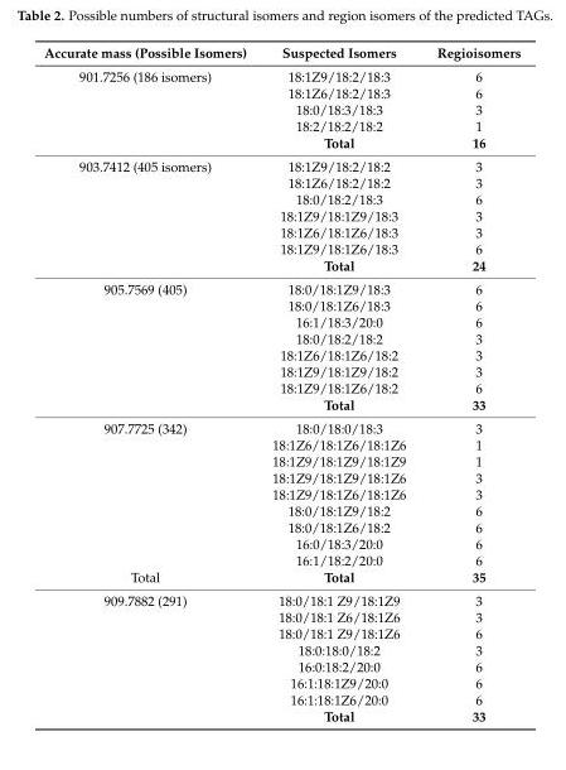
<table><thead><tr><td>Accurate mass (Possible Isomers)</td><td>Suspected Isomers</td><td>Regioisomers</td></tr></thead><tbody><tr><td rowspan="5">901.7256 (186 isomers)</td><td>18:1Z9/18:2/18:3</td><td>6</td></tr><tr><td>18:1Z6/18:2/18:3</td><td>6</td></tr><tr><td>18:0/18:3/18:3</td><td>3</td></tr><tr><td>18:2/18:2/18:2</td><td>1</td></tr><tr><td>Total</td><td>16</td></tr><tr><td rowspan="7">903.7412 (405 isomers)</td><td>18:1Z9/18:2/18:2</td><td>3</td></tr><tr><td>18:1Z6/18:2/18:2</td><td>3</td></tr><tr><td>18:0/18:2/18:3</td><td>6</td></tr><tr><td>18:1Z9/18:1Z9/18:3</td><td>3</td></tr><tr><td>18:1Z6/18:1Z6/18:3</td><td>3</td></tr><tr><td>18:1Z9/18:1Z6/18:3</td><td>6</td></tr><tr><td>Total</td><td>24</td></tr><tr><td rowspan="8">905.7569 (405)</td><td>18:0/18:1Z9/18:3</td><td>6</td></tr><tr><td>18:0/18:1Z6/18:3</td><td>6</td></tr><tr><td>16:1/18:3/20:0</td><td>6</td></tr><tr><td>18:0/18:2/18:2</td><td>3</td></tr><tr><td>18:1Z6/18:1Z6/18:2</td><td>3</td></tr><tr><td>18:1Z9/18:1Z9/18:2</td><td>3</td></tr><tr><td>18:1Z9/18:1Z6/18:2</td><td>6</td></tr><tr><td>Total</td><td>33</td></tr><tr><td rowspan="9">907.7725 (342)</td><td>18:0/18:0/18:3</td><td>3</td></tr><tr><td>18:1Z6/18:1Z6/18:1Z6</td><td>1</td></tr><tr><td>18:1Z9/18:1Z9/18:1Z9</td><td>1</td></tr><tr><td>18:1Z9/18:1Z9/18:1Z6</td><td>3</td></tr><tr><td>18:1Z9/18:1Z6/18:1Z6</td><td>3</td></tr><tr><td>18:0/18:1Z9/18:2</td><td>6</td></tr><tr><td>18:0/18:1Z6/18:2</td><td>6</td></tr><tr><td>16:0/18:3/20:0</td><td>6</td></tr><tr><td>16:1/18:2/20:0</td><td>6</td></tr><tr><td>Total</td><td>Total</td><td>35</td></tr><tr><td rowspan="8">909.7882 (291)</td><td>18:0/18:1 Z9/18:1Z9</td><td>3</td></tr><tr><td>18:0/18:1 Z6/18:1Z6</td><td>3</td></tr><tr><td>18:0/18:1 Z9/18:1Z6</td><td>6</td></tr><tr><td>18:0:18:0/18:2</td><td>3</td></tr><tr><td>16:0:18:2/20:0</td><td>6</td></tr><tr><td>16:1:18:1Z9/20:0</td><td>6</td></tr><tr><td>16:1:18:1Z6/20:0</td><td>6</td></tr><tr><td>Total</td><td>33</td></tr></tbody></table>